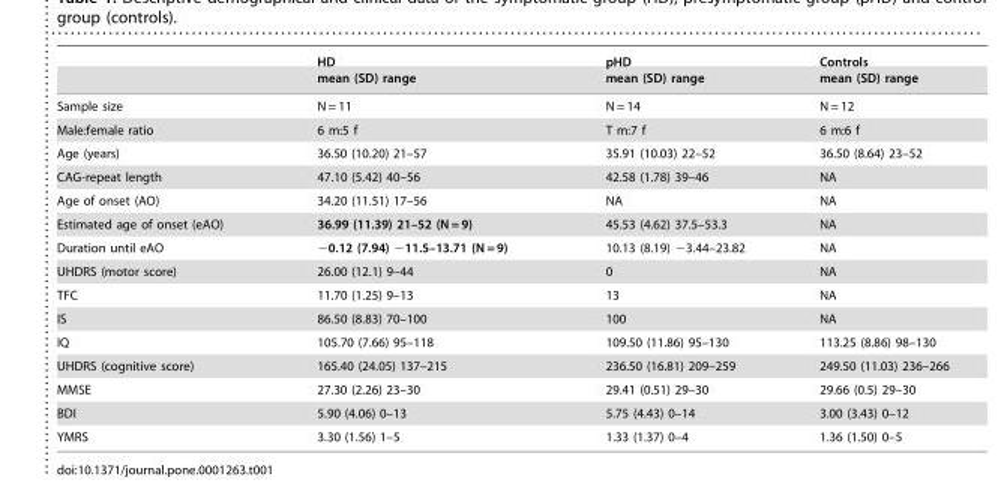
<table><thead><tr><td rowspan="2"></td><td rowspan="2">HD mean (SD) range</td><td rowspan="2">pHD mean (SD) range</td><td rowspan="2">Controls mean (SD) range</td></tr><tr></tr></thead><tbody><tr><td>Sample size</td><td>N = 11</td><td>N = 14</td><td>N = 12</td></tr><tr><td>Male:female ratio</td><td>6 m:5 f</td><td>T m:7 f</td><td>6 m:6 f</td></tr><tr><td>Age (years)</td><td>36.50 (10.20) 21–57</td><td>35.91 (10.03) 22–52</td><td>36.50 (8.64) 23–52</td></tr><tr><td>CAG-repeat length</td><td>47.10 (5.42) 40–56</td><td>42.58 (1.78) 39–46</td><td>NA</td></tr><tr><td>Age of onset (AO)</td><td>34.20 (11.51) 17–56</td><td>NA</td><td>NA</td></tr><tr><td>Estimated age of onset (eAO)</td><td>36.99 (11.39) 21–52 (N = 9)</td><td>45.53 (4.62) 37.5–53.3</td><td>NA</td></tr><tr><td>Duration until eAO</td><td>−0.12 (7.94) −11.5–13.71 (N = 9)</td><td>10.13 (8.19) −3.44–23.82</td><td>NA</td></tr><tr><td>UHDRS (motor score)</td><td>26.00 (12.1) 9–44</td><td>0</td><td>NA</td></tr><tr><td>TFC</td><td>11.70 (1.25) 9–13</td><td>13</td><td>NA</td></tr><tr><td>IS</td><td>86.50 (8.83) 70–100</td><td>100</td><td>NA</td></tr><tr><td>IQ</td><td>105.70 (7.66) 95–118</td><td>109.50 (11.86) 95–130</td><td>113.25 (8.86) 98–130</td></tr><tr><td>UHDRS (cognitive score)</td><td>165.40 (24.05) 137–215</td><td>236.50 (16.81) 209–259</td><td>249.50 (11.03) 236–266</td></tr><tr><td>MMSE</td><td>27.30 (2.26) 23–30</td><td>29.41 (0.51) 29–30</td><td>29.66 (0.5) 29–30</td></tr><tr><td>BDI</td><td>5.90 (4.06) 0–13</td><td>5.75 (4.43) 0–14</td><td>3.00 (3.43) 0–12</td></tr><tr><td>YMRS</td><td>3.30 (1.56) 1–5</td><td>1.33 (1.37) 0–4</td><td>1.36 (1.50) 0–5</td></tr></tbody></table>